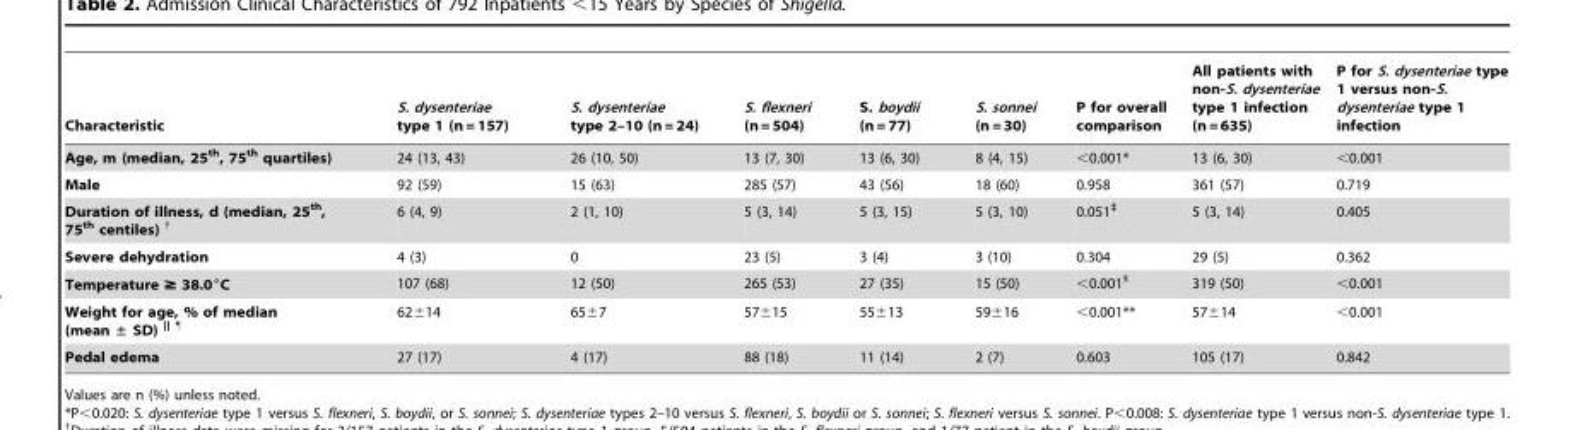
<table><thead><tr><td>Characteristic</td><td>S. dysenteriae type 1 (n = 157)</td><td>S. dysenteriae type 2–10 (n = 24)</td><td>S. flexneri (n = 504)</td><td>S. boydii (n = 77)</td><td>S. sonnei (n = 30)</td><td>P for overall comparison</td><td>All patients with non-S. dysenteriae type 1 infection (n = 635)</td><td>P for S. dysenteriae type 1 versus non-S. dysenteriae type 1 infection</td></tr></thead><tbody><tr><td>Age, m (median, 25<sup>th</sup>, 75<sup>th</sup> quartiles)</td><td>24 (13, 43)</td><td>26 (10, 50)</td><td>13 (7, 30)</td><td>13 (6, 30)</td><td>8 (4, 15)</td><td>&lt;0.001*</td><td>13 (6, 30)</td><td>&lt;0.001</td></tr><tr><td>Male</td><td>92 (59)</td><td>15 (63)</td><td>285 (57)</td><td>43 (56)</td><td>18 (60)</td><td>0.958</td><td>361 (57)</td><td>0.719</td></tr><tr><td>Duration of illness, d (median, 25<sup>th</sup>, 75<sup>th</sup> centiles) †</td><td>6 (4, 9)</td><td>2 (1, 10)</td><td>5 (3, 14)</td><td>5 (3, 15)</td><td>5 (3, 10)</td><td>0.051‡</td><td>5 (3, 14)</td><td>0.405</td></tr><tr><td>Severe dehydration</td><td>4 (3)</td><td>0</td><td>23 (5)</td><td>3 (4)</td><td>3 (10)</td><td>0.304</td><td>29 (5)</td><td>0.362</td></tr><tr><td>Temperature ≥ 38.0°C</td><td>107 (68)</td><td>12 (50)</td><td>265 (53)</td><td>27 (35)</td><td>15 (50)</td><td>&lt;0.001§</td><td>319 (50)</td><td>&lt;0.001</td></tr><tr><td>Weight for age, % of median (mean ± SD) || ¶</td><td>62±14</td><td>65±7</td><td>57±15</td><td>55±13</td><td>59±16</td><td>&lt;0.001**</td><td>57±14</td><td>&lt;0.001</td></tr><tr><td>Pedal edema</td><td>27 (17)</td><td>4 (17)</td><td>88 (18)</td><td>11 (14)</td><td>2 (7)</td><td>0.603</td><td>105 (17)</td><td>0.842</td></tr></tbody></table>